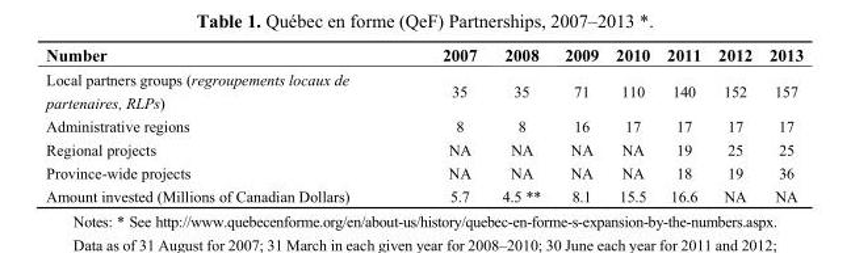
<table><thead><tr><td>Number</td><td>2007</td><td>2008</td><td>2009</td><td>2010</td><td>2011</td><td>2012</td><td>2013</td></tr></thead><tbody><tr><td>Local partners groups (regroupements locaux de partenaires, RLPs)</td><td>35</td><td>35</td><td>71</td><td>110</td><td>140</td><td>152</td><td>157</td></tr><tr><td>Administrative regions</td><td>8</td><td>8</td><td>16</td><td>17</td><td>17</td><td>17</td><td>17</td></tr><tr><td>Regional projects</td><td>NA</td><td>NA</td><td>NA</td><td>NA</td><td>19</td><td>25</td><td>25</td></tr><tr><td>Province-wide projects</td><td>NA</td><td>NA</td><td>NA</td><td>NA</td><td>18</td><td>19</td><td>36</td></tr><tr><td>Amount invested (Millions of Canadian Dollars)</td><td>5.7</td><td>4.5 **</td><td>8.1</td><td>15.5</td><td>16.6</td><td>NA</td><td>NA</td></tr></tbody></table>